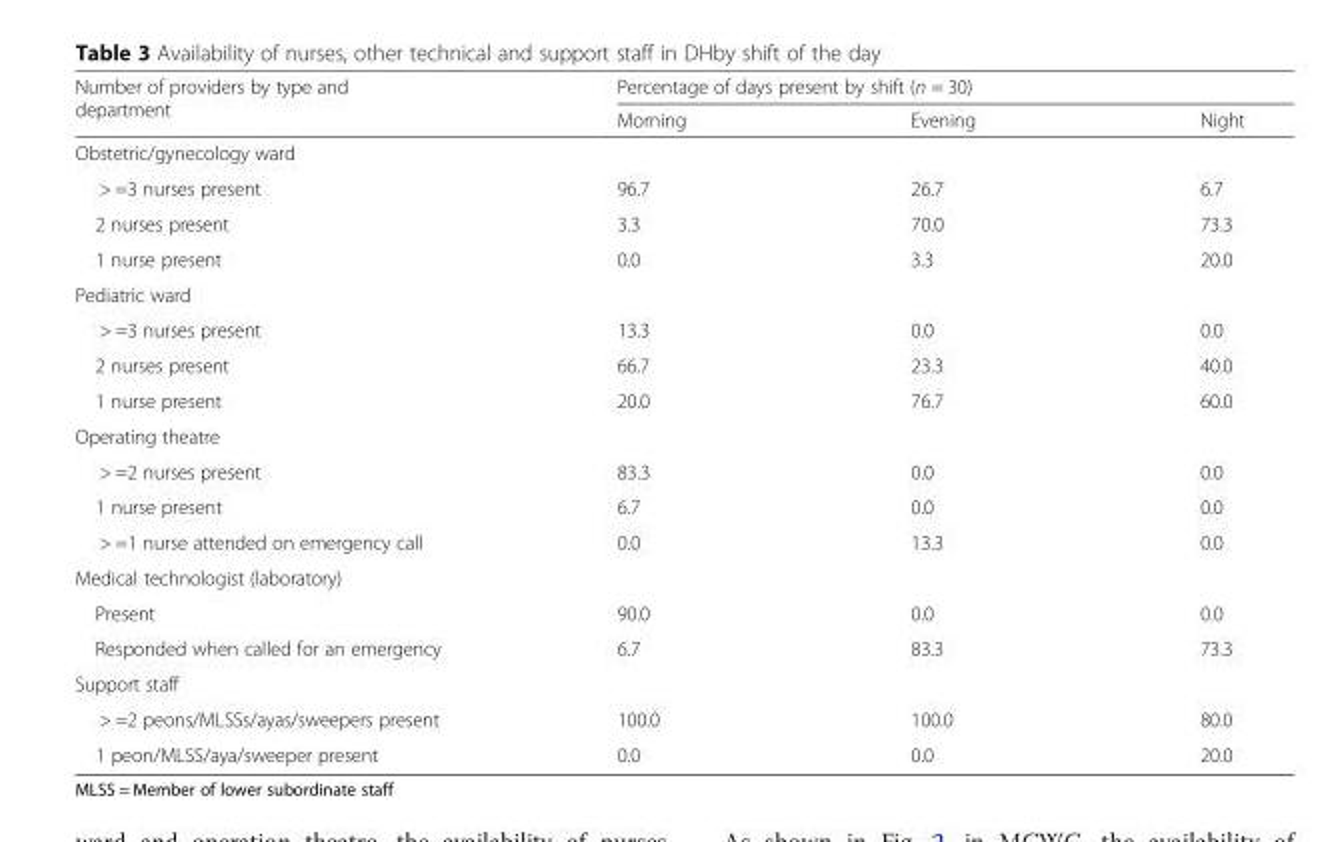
<table><thead><tr><td rowspan="2">Number of providers by type and department</td><td colspan="3">Percentage of days present by shift (n = 30)</td></tr><tr><td>Morning</td><td>Evening</td><td>Night</td></tr></thead><tbody><tr><td colspan="4">Obstetric/gynecology ward</td></tr><tr><td>&gt; =3 nurses present</td><td>96.7</td><td>26.7</td><td>6.7</td></tr><tr><td>2 nurses present</td><td>3.3</td><td>70.0</td><td>73.3</td></tr><tr><td>1 nurse present</td><td>0.0</td><td>3.3</td><td>20.0</td></tr><tr><td colspan="4">Pediatric ward</td></tr><tr><td>&gt; =3 nurses present</td><td>13.3</td><td>0.0</td><td>0.0</td></tr><tr><td>2 nurses present</td><td>66.7</td><td>23.3</td><td>40.0</td></tr><tr><td>1 nurse present</td><td>20.0</td><td>76.7</td><td>60.0</td></tr><tr><td colspan="4">Operating theatre</td></tr><tr><td>&gt; =2 nurses present</td><td>83.3</td><td>0.0</td><td>0.0</td></tr><tr><td>1 nurse present</td><td>6.7</td><td>0.0</td><td>0.0</td></tr><tr><td>&gt; =1 nurse attended on emergency call</td><td>0.0</td><td>13.3</td><td>0.0</td></tr><tr><td colspan="4">Medical technologist (laboratory)</td></tr><tr><td>Present</td><td>90.0</td><td>0.0</td><td>0.0</td></tr><tr><td>Responded when called for an emergency</td><td>6.7</td><td>83.3</td><td>73.3</td></tr><tr><td colspan="4">Support staff</td></tr><tr><td>&gt; =2 peons/MLSSs/ayas/sweepers present</td><td>100.0</td><td>100.0</td><td>80.0</td></tr><tr><td>1 peon/MLSS/aya/sweeper present</td><td>0.0</td><td>0.0</td><td>20.0</td></tr></tbody></table>